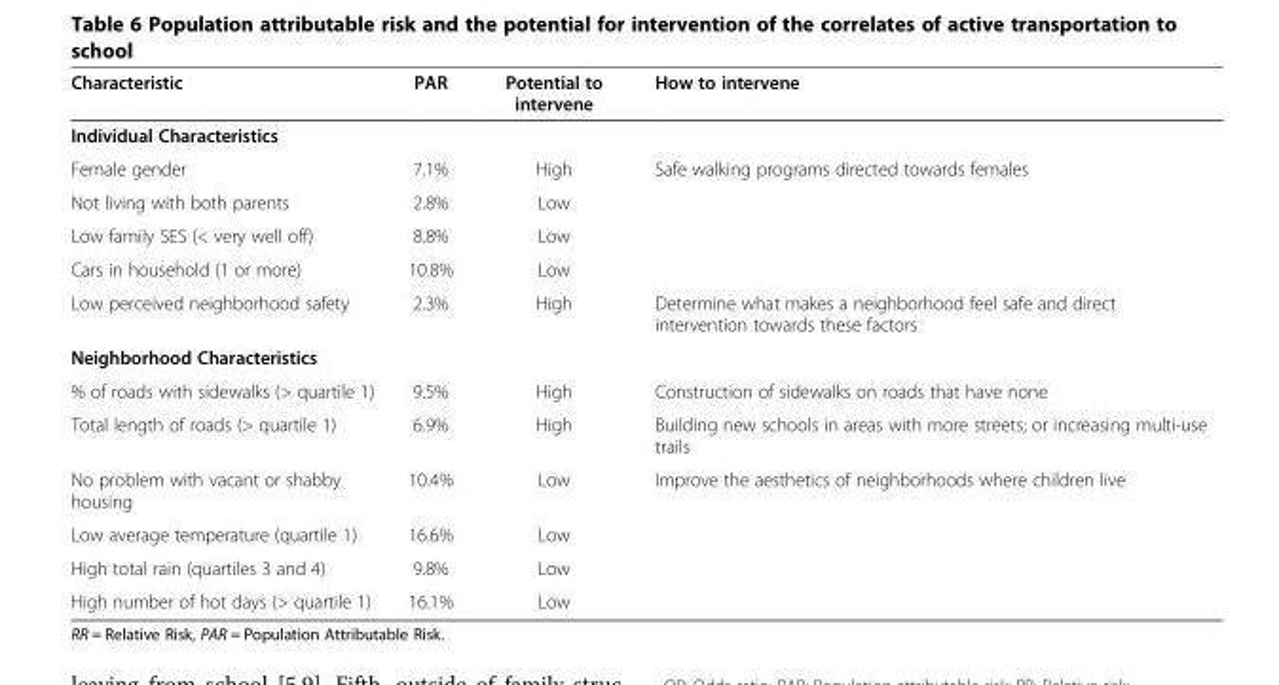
<table><thead><tr><td>Characteristic</td><td>PAR</td><td>Potential to intervene</td><td>How to intervene</td></tr></thead><tbody><tr><td colspan="4">Individual Characteristics</td></tr><tr><td>Female gender</td><td>7.1%</td><td>High</td><td>Safe walking programs directed towards females</td></tr><tr><td>Not living with both parents</td><td>2.8%</td><td>Low</td><td></td></tr><tr><td>Low family SES (&lt; very well off)</td><td>8.8%</td><td>Low</td><td></td></tr><tr><td>Cars in household (1 or more)</td><td>10.8%</td><td>Low</td><td></td></tr><tr><td>Low perceived neighborhood safety</td><td>2.3%</td><td>High</td><td>Determine what makes a neighborhood feel safe and direct intervention towards these factors</td></tr><tr><td colspan="4">Neighborhood Characteristics</td></tr><tr><td>% of roads with sidewalks (&gt; quartile 1)</td><td>9.5%</td><td>High</td><td>Construction of sidewalks on roads that have none</td></tr><tr><td>Total length of roads (&gt; quartile 1)</td><td>6.9%</td><td>High</td><td>Building new schools in areas with more streets; or increasing multi-use trails</td></tr><tr><td>No problem with vacant or shabby housing</td><td>10.4%</td><td>Low</td><td>Improve the aesthetics of neighborhoods where children live</td></tr><tr><td>Low average temperature (quartile 1)</td><td>16.6%</td><td>Low</td><td></td></tr><tr><td>High total rain (quartiles 3 and 4)</td><td>9.8%</td><td>Low</td><td></td></tr><tr><td>High number of hot days (&gt; quartile 1)</td><td>16.1%</td><td>Low</td><td></td></tr></tbody></table>